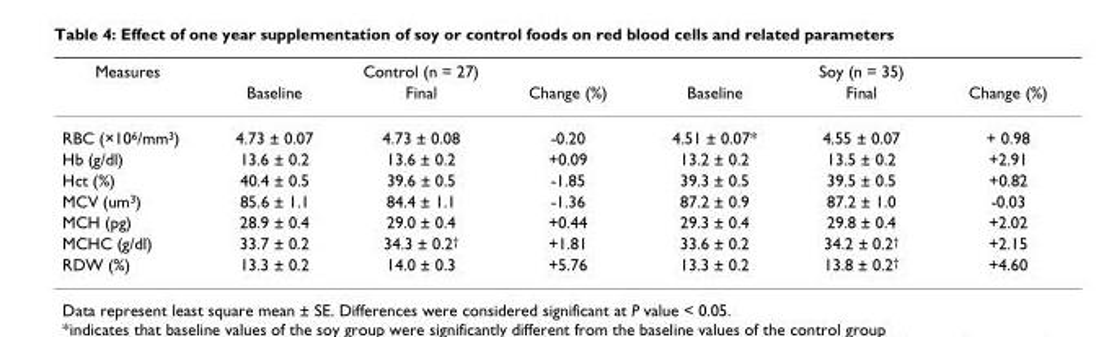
<table><thead><tr><td rowspan="2">Measures</td><td colspan="3">Control (n = 27)</td><td colspan="3">Soy (n = 35)</td></tr><tr><td>Baseline</td><td>Final</td><td>Change (%)</td><td>Baseline</td><td>Final</td><td>Change (%)</td></tr></thead><tbody><tr><td>RBC (×10<sup>6</sup>/mm<sup>3</sup>)</td><td>4.73 ± 0.07</td><td>4.73 ± 0.08</td><td>-0.20</td><td>4.51 ± 0.07*</td><td>4.55 ± 0.07</td><td>+ 0.98</td></tr><tr><td>Hb (g/dl)</td><td>13.6 ± 0.2</td><td>13.6 ± 0.2</td><td>+0.09</td><td>13.2 ± 0.2</td><td>13.5 ± 0.2</td><td>+2.91</td></tr><tr><td>Hct (%)</td><td>40.4 ± 0.5</td><td>39.6 ± 0.5</td><td>-1.85</td><td>39.3 ± 0.5</td><td>39.5 ± 0.5</td><td>+0.82</td></tr><tr><td>MCV (um<sup>3</sup>)</td><td>85.6 ± 1.1</td><td>84.4 ± 1.1</td><td>-1.36</td><td>87.2 ± 0.9</td><td>87.2 ± 1.0</td><td>-0.03</td></tr><tr><td>MCH (pg)</td><td>28.9 ± 0.4</td><td>29.0 ± 0.4</td><td>+0.44</td><td>29.3 ± 0.4</td><td>29.8 ± 0.4</td><td>+2.02</td></tr><tr><td>MCHC (g/dl)</td><td>33.7 ± 0.2</td><td>34.3 ± 0.2<sup>†</sup></td><td>+1.81</td><td>33.6 ± 0.2</td><td>34.2 ± 0.2<sup>†</sup></td><td>+2.15</td></tr><tr><td>RDW (%)</td><td>13.3 ± 0.2</td><td>14.0 ± 0.3</td><td>+5.76</td><td>13.3 ± 0.2</td><td>13.8 ± 0.2<sup>†</sup></td><td>+4.60</td></tr></tbody></table>